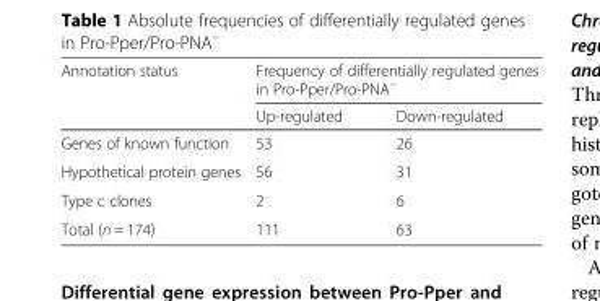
<table><thead><tr><td rowspan="2">Annotation status</td><td colspan="2">Frequency of differentially regulated genes in Pro-Pper/Pro-PNA<sup>−</sup></td></tr><tr><td>Up-regulated</td><td>Down-regulated</td></tr></thead><tbody><tr><td>Genes of known function</td><td>53</td><td>26</td></tr><tr><td>Hypothetical protein genes</td><td>56</td><td>31</td></tr><tr><td>Type c clones</td><td>2</td><td>6</td></tr><tr><td>Total (n = 174)</td><td>111</td><td>63</td></tr></tbody></table>